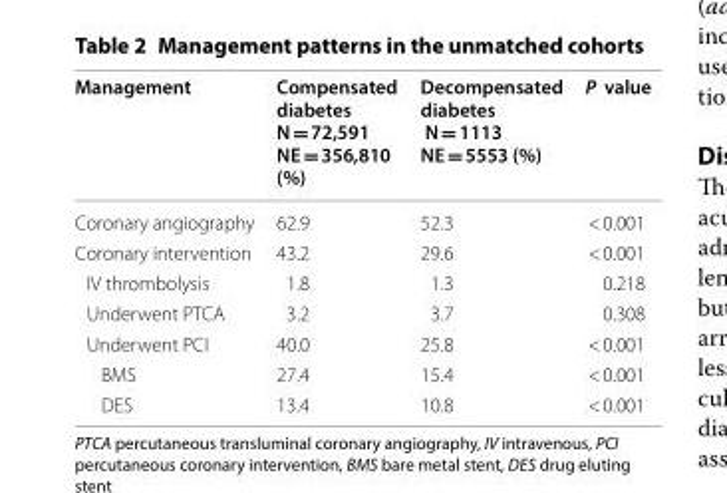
<table><thead><tr><td>Management</td><td>Compensated diabetes N = 72,591 NE = 356,810 (%)</td><td>Decompensated diabetes N = 1113 NE = 5553 (%)</td><td>P value</td></tr></thead><tbody><tr><td>Coronary angiography</td><td>62.9</td><td>52.3</td><td>&lt; 0.001</td></tr><tr><td>Coronary intervention</td><td>43.2</td><td>29.6</td><td>&lt; 0.001</td></tr><tr><td>IV thrombolysis</td><td>1.8</td><td>1.3</td><td>0.218</td></tr><tr><td>Underwent PTCA</td><td>3.2</td><td>3.7</td><td>0.308</td></tr><tr><td>Underwent PCI</td><td>40.0</td><td>25.8</td><td>&lt; 0.001</td></tr><tr><td>BMS</td><td>27.4</td><td>15.4</td><td>&lt; 0.001</td></tr><tr><td>DES</td><td>13.4</td><td>10.8</td><td>&lt; 0.001</td></tr></tbody></table>